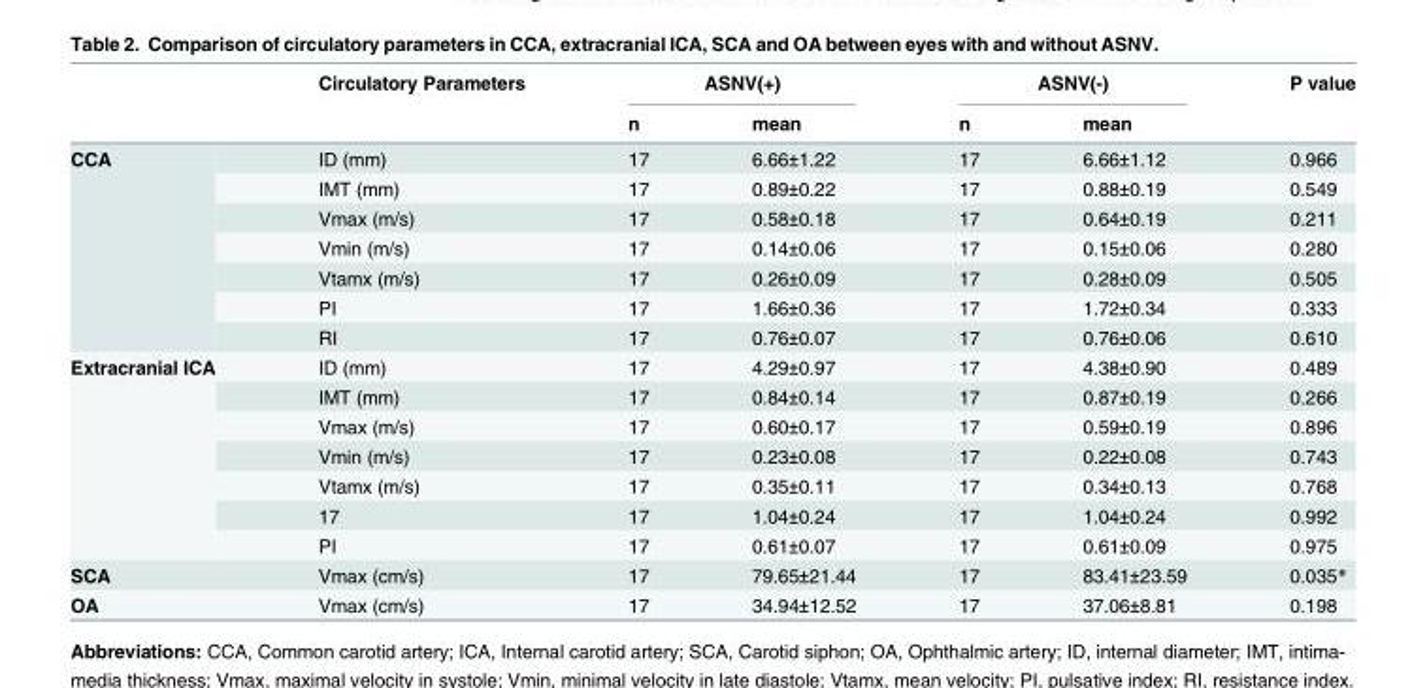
<table><thead><tr><td rowspan="2"></td><td rowspan="2">Circulatory Parameters</td><td colspan="2">ASNV(+)</td><td colspan="2">ASNV(-)</td><td rowspan="2">P value</td></tr><tr><td>n</td><td>mean</td><td>n</td><td>mean</td></tr></thead><tbody><tr><td rowspan="7">CCA</td><td>ID (mm)</td><td>17</td><td>6.66±1.22</td><td>17</td><td>6.66±1.12</td><td>0.966</td></tr><tr><td>IMT (mm)</td><td>17</td><td>0.89±0.22</td><td>17</td><td>0.88±0.19</td><td>0.549</td></tr><tr><td>Vmax (m/s)</td><td>17</td><td>0.58±0.18</td><td>17</td><td>0.64±0.19</td><td>0.211</td></tr><tr><td>Vmin (m/s)</td><td>17</td><td>0.14±0.06</td><td>17</td><td>0.15±0.06</td><td>0.280</td></tr><tr><td>Vtamx (m/s)</td><td>17</td><td>0.26±0.09</td><td>17</td><td>0.28±0.09</td><td>0.505</td></tr><tr><td>PI</td><td>17</td><td>1.66±0.36</td><td>17</td><td>1.72±0.34</td><td>0.333</td></tr><tr><td>RI</td><td>17</td><td>0.76±0.07</td><td>17</td><td>0.76±0.06</td><td>0.610</td></tr><tr><td rowspan="7">Extracranial ICA</td><td>ID (mm)</td><td>17</td><td>4.29±0.97</td><td>17</td><td>4.38±0.90</td><td>0.489</td></tr><tr><td>IMT (mm)</td><td>17</td><td>0.84±0.14</td><td>17</td><td>0.87±0.19</td><td>0.266</td></tr><tr><td>Vmax (m/s)</td><td>17</td><td>0.60±0.17</td><td>17</td><td>0.59±0.19</td><td>0.896</td></tr><tr><td>Vmin (m/s)</td><td>17</td><td>0.23±0.08</td><td>17</td><td>0.22±0.08</td><td>0.743</td></tr><tr><td>Vtamx (m/s)</td><td>17</td><td>0.35±0.11</td><td>17</td><td>0.34±0.13</td><td>0.768</td></tr><tr><td>17</td><td>17</td><td>1.04±0.24</td><td>17</td><td>1.04±0.24</td><td>0.992</td></tr><tr><td>PI</td><td>17</td><td>0.61±0.07</td><td>17</td><td>0.61±0.09</td><td>0.975</td></tr><tr><td>SCA</td><td>Vmax (cm/s)</td><td>17</td><td>79.65±21.44</td><td>17</td><td>83.41±23.59</td><td>0.035*</td></tr><tr><td>OA</td><td>Vmax (cm/s)</td><td>17</td><td>34.94±12.52</td><td>17</td><td>37.06±8.81</td><td>0.198</td></tr></tbody></table>